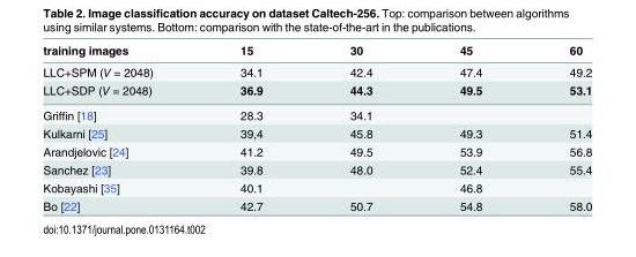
<table><thead><tr><td>training images</td><td>15</td><td>30</td><td>45</td><td>60</td></tr></thead><tbody><tr><td>LLC+SPM (V = 2048)</td><td>34.1</td><td>42.4</td><td>47.4</td><td>49.2</td></tr><tr><td>LLC+SDP (V = 2048)</td><td>36.9</td><td>44.3</td><td>49.5</td><td>53.1</td></tr><tr><td>Griffin [18]</td><td>28.3</td><td>34.1</td><td></td><td></td></tr><tr><td>Kulkarni [25]</td><td>39,4</td><td>45.8</td><td>49.3</td><td>51.4</td></tr><tr><td>Arandjelovic [24]</td><td>41.2</td><td>49.5</td><td>53.9</td><td>56.8</td></tr><tr><td>Sanchez [23]</td><td>39.8</td><td>48.0</td><td>52.4</td><td>55.4</td></tr><tr><td>Kobayashi [35]</td><td>40.1</td><td></td><td>46.8</td><td></td></tr><tr><td>Bo [22]</td><td>42.7</td><td>50.7</td><td>54.8</td><td>58.0</td></tr></tbody></table>